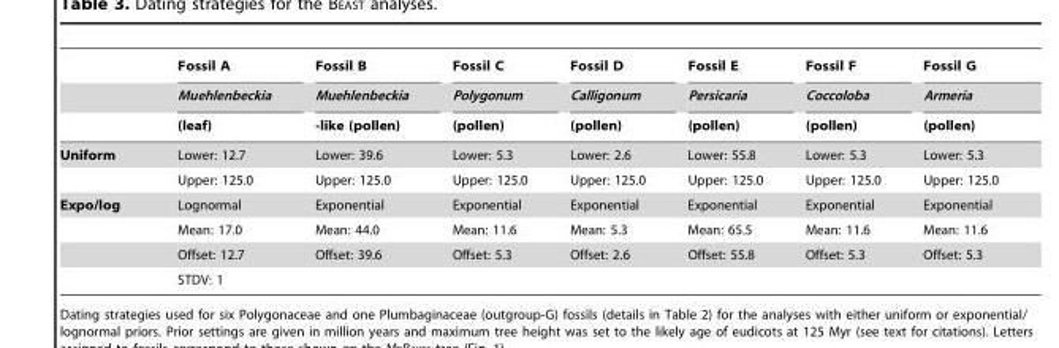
<table><thead><tr><td rowspan="3"></td><td rowspan="3">Fossil A Muehlenbeckia (leaf)</td><td rowspan="3">Fossil B Muehlenbeckia -like (pollen)</td><td rowspan="3">Fossil C Polygonum (pollen)</td><td rowspan="3">Fossil D Calligonum (pollen)</td><td rowspan="3">Fossil E Persicaria (pollen)</td><td rowspan="3">Fossil F Coccoloba (pollen)</td><td rowspan="3">Fossil G Armeria (pollen)</td></tr><tr></tr><tr></tr></thead><tbody><tr><td rowspan="2">Uniform</td><td>Lower: 12.7</td><td>Lower: 39.6</td><td>Lower: 5.3</td><td>Lower: 2.6</td><td>Lower: 55.8</td><td>Lower: 5.3</td><td>Lower: 5.3</td></tr><tr><td>Upper: 125.0</td><td>Upper: 125.0</td><td>Upper: 125.0</td><td>Upper: 125.0</td><td>Upper: 125.0</td><td>Upper: 125.0</td><td>Upper: 125.0</td></tr><tr><td rowspan="4">Expo/log</td><td>Lognormal</td><td>Exponential</td><td>Exponential</td><td>Exponential</td><td>Exponential</td><td>Exponential</td><td>Exponential</td></tr><tr><td>Mean: 17.0</td><td>Mean: 44.0</td><td>Mean: 11.6</td><td>Mean: 5.3</td><td>Mean: 65.5</td><td>Mean: 11.6</td><td>Mean: 11.6</td></tr><tr><td>Offset: 12.7</td><td>Offset: 39.6</td><td>Offset: 5.3</td><td>Offset: 2.6</td><td>Offset: 55.8</td><td>Offset: 5.3</td><td>Offset: 5.3</td></tr><tr><td>STDV: 1</td><td></td><td></td><td></td><td></td><td></td><td></td></tr></tbody></table>